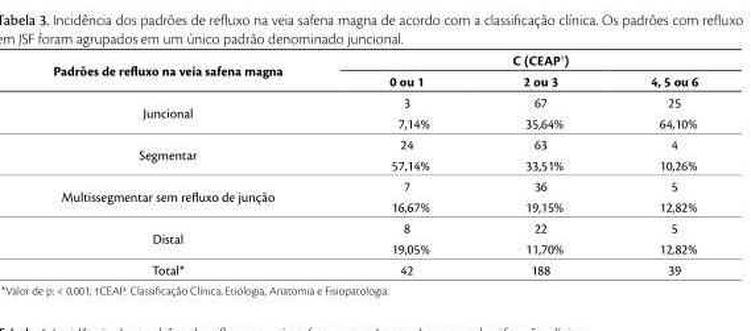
<table><thead><tr><td rowspan="2">Padrões de refluxo na veia safena magna</td><td colspan="3">C (CEAP†)</td></tr><tr><td>0 ou 1</td><td>2 ou 3</td><td>4, 5 ou 6</td></tr></thead><tbody><tr><td rowspan="2">Juncional</td><td>3</td><td>67</td><td>25</td></tr><tr><td>7,14%</td><td>35,64%</td><td>64,10%</td></tr><tr><td rowspan="2">Segmentar</td><td>24</td><td>63</td><td>4</td></tr><tr><td>57,14%</td><td>33,51%</td><td>10,26%</td></tr><tr><td rowspan="2">Multissegmentar sem refluxo de junção</td><td>7</td><td>36</td><td>5</td></tr><tr><td>16,67%</td><td>19,15%</td><td>12,82%</td></tr><tr><td rowspan="2">Distal</td><td>8</td><td>22</td><td>5</td></tr><tr><td>19,05%</td><td>11,70%</td><td>12,82%</td></tr><tr><td>Total*</td><td>42</td><td>188</td><td>39</td></tr></tbody></table>